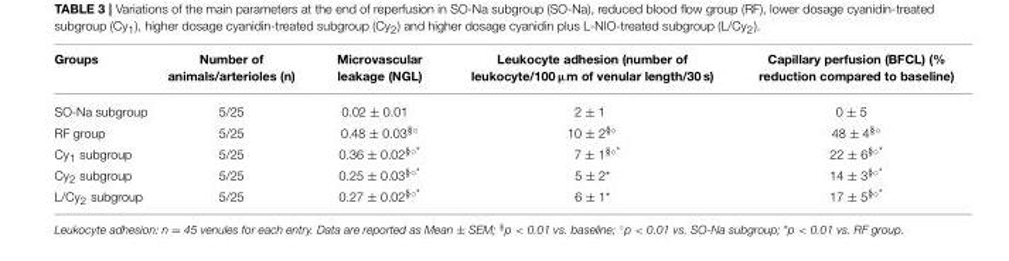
<table><thead><tr><td>Groups</td><td>Number of animals/arterioles (n)</td><td>Microvascular leakage (NGL)</td><td>Leukocyte adhesion (number of leukocyte/100 µm of venular length/30 s)</td><td>Capillary perfusion (BFCL) (% reduction compared to baseline)</td></tr></thead><tbody><tr><td>SO-Na subgroup</td><td>5/25</td><td>0.02 ± 0.01</td><td>2 ± 1</td><td>0 ± 5</td></tr><tr><td>RF group</td><td>5/25</td><td>0.48 ± 0.03§◦</td><td>10 ± 2§◦</td><td>48 ± 4§◦</td></tr><tr><td>Cy<sub>1</sub> subgroup</td><td>5/25</td><td>0.36 ± 0.02§◦*</td><td>7 ± 1§◦*</td><td>22 ± 6§◦*</td></tr><tr><td>Cy<sub>2</sub> subgroup</td><td>5/25</td><td>0.25 ± 0.03§◦*</td><td>5 ± 2*</td><td>14 ± 3§◦*</td></tr><tr><td>L/Cy<sub>2</sub> subgroup</td><td>5/25</td><td>0.27 ± 0.02§◦*</td><td>6 ± 1*</td><td>17 ± 5§◦*</td></tr></tbody></table>